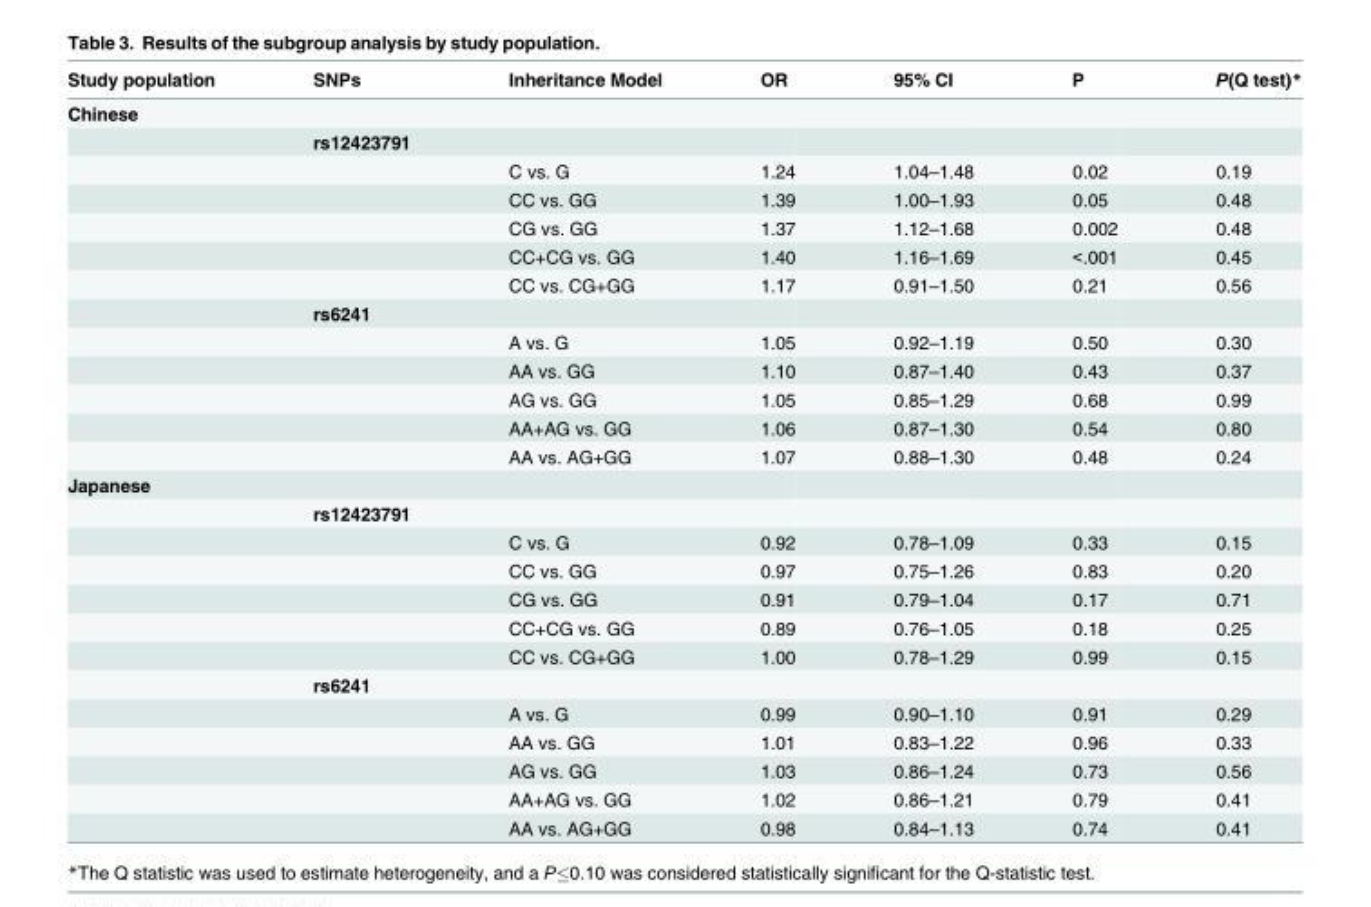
<table><thead><tr><td>Study population</td><td>SNPs</td><td>Inheritance Model</td><td>OR</td><td>95% CI</td><td>P</td><td>P(Q test)*</td></tr></thead><tbody><tr><td colspan="7">Chinese</td></tr><tr><td></td><td>rs12423791</td><td></td><td></td><td></td><td></td><td></td></tr><tr><td></td><td></td><td>C vs. G</td><td>1.24</td><td>1.04–1.48</td><td>0.02</td><td>0.19</td></tr><tr><td></td><td></td><td>CC vs. GG</td><td>1.39</td><td>1.00–1.93</td><td>0.05</td><td>0.48</td></tr><tr><td></td><td></td><td>CG vs. GG</td><td>1.37</td><td>1.12–1.68</td><td>0.002</td><td>0.48</td></tr><tr><td></td><td></td><td>CC+CG vs. GG</td><td>1.40</td><td>1.16–1.69</td><td>&lt;.001</td><td>0.45</td></tr><tr><td></td><td></td><td>CC vs. CG+GG</td><td>1.17</td><td>0.91–1.50</td><td>0.21</td><td>0.56</td></tr><tr><td></td><td>rs6241</td><td></td><td></td><td></td><td></td><td></td></tr><tr><td></td><td></td><td>A vs. G</td><td>1.05</td><td>0.92–1.19</td><td>0.50</td><td>0.30</td></tr><tr><td></td><td></td><td>AA vs. GG</td><td>1.10</td><td>0.87–1.40</td><td>0.43</td><td>0.37</td></tr><tr><td></td><td></td><td>AG vs. GG</td><td>1.05</td><td>0.85–1.29</td><td>0.68</td><td>0.99</td></tr><tr><td></td><td></td><td>AA+AG vs. GG</td><td>1.06</td><td>0.87–1.30</td><td>0.54</td><td>0.80</td></tr><tr><td></td><td></td><td>AA vs. AG+GG</td><td>1.07</td><td>0.88–1.30</td><td>0.48</td><td>0.24</td></tr><tr><td colspan="7">Japanese</td></tr><tr><td></td><td>rs12423791</td><td></td><td></td><td></td><td></td><td></td></tr><tr><td></td><td></td><td>C vs. G</td><td>0.92</td><td>0.78–1.09</td><td>0.33</td><td>0.15</td></tr><tr><td></td><td></td><td>CC vs. GG</td><td>0.97</td><td>0.75–1.26</td><td>0.83</td><td>0.20</td></tr><tr><td></td><td></td><td>CG vs. GG</td><td>0.91</td><td>0.79–1.04</td><td>0.17</td><td>0.71</td></tr><tr><td></td><td></td><td>CC+CG vs. GG</td><td>0.89</td><td>0.76–1.05</td><td>0.18</td><td>0.25</td></tr><tr><td></td><td></td><td>CC vs. CG+GG</td><td>1.00</td><td>0.78–1.29</td><td>0.99</td><td>0.15</td></tr><tr><td></td><td>rs6241</td><td></td><td></td><td></td><td></td><td></td></tr><tr><td></td><td></td><td>A vs. G</td><td>0.99</td><td>0.90–1.10</td><td>0.91</td><td>0.29</td></tr><tr><td></td><td></td><td>AA vs. GG</td><td>1.01</td><td>0.83–1.22</td><td>0.96</td><td>0.33</td></tr><tr><td></td><td></td><td>AG vs. GG</td><td>1.03</td><td>0.86–1.24</td><td>0.73</td><td>0.56</td></tr><tr><td></td><td></td><td>AA+AG vs. GG</td><td>1.02</td><td>0.86–1.21</td><td>0.79</td><td>0.41</td></tr><tr><td></td><td></td><td>AA vs. AG+GG</td><td>0.98</td><td>0.84–1.13</td><td>0.74</td><td>0.41</td></tr></tbody></table>